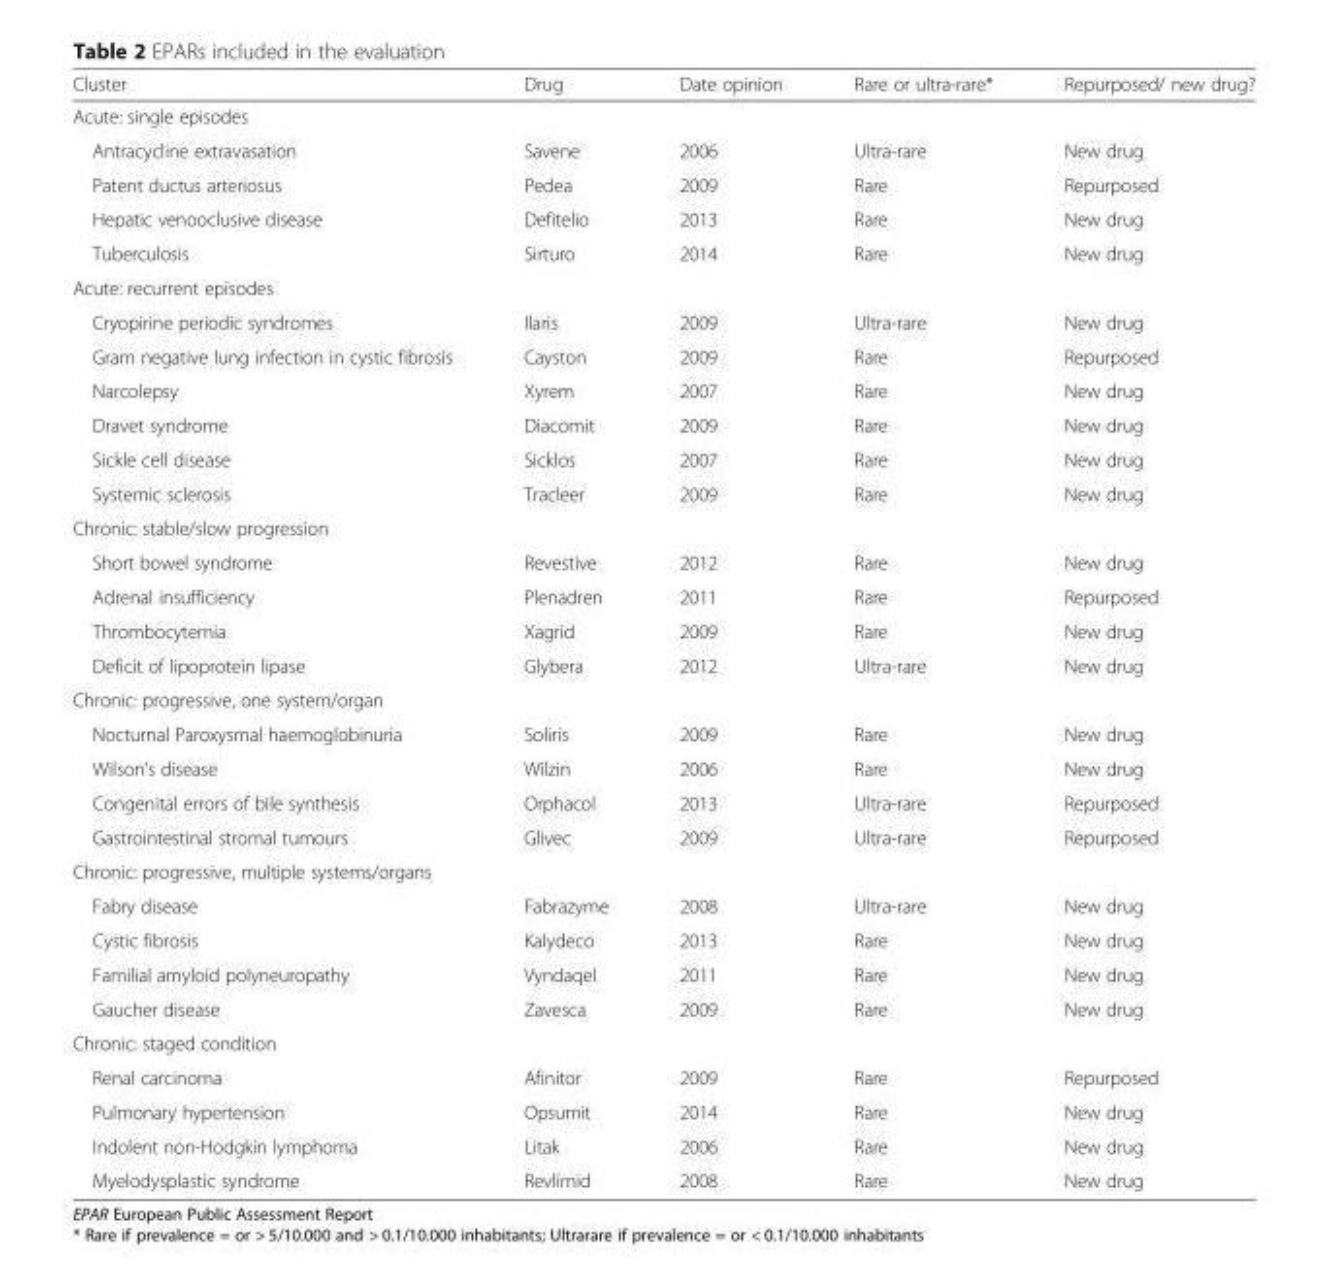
<table><thead><tr><td>Cluster</td><td>Drug</td><td>Date opinion</td><td>Rare or ultra-rare*</td><td>Repurposed/ new drug?</td></tr></thead><tbody><tr><td colspan="5">Acute: single episodes</td></tr><tr><td>Antracycline extravasation</td><td>Savene</td><td>2006</td><td>Ultra-rare</td><td>New drug</td></tr><tr><td>Patent ductus arteriosus</td><td>Pedea</td><td>2009</td><td>Rare</td><td>Repurposed</td></tr><tr><td>Hepatic venooclusive disease</td><td>Defitelio</td><td>2013</td><td>Rare</td><td>New drug</td></tr><tr><td>Tuberculosis</td><td>Sirturo</td><td>2014</td><td>Rare</td><td>New drug</td></tr><tr><td colspan="5">Acute: recurrent episodes</td></tr><tr><td>Cryopirine periodic syndromes</td><td>Ilaris</td><td>2009</td><td>Ultra-rare</td><td>New drug</td></tr><tr><td>Gram negative lung infection in cystic fibrosis</td><td>Cayston</td><td>2009</td><td>Rare</td><td>Repurposed</td></tr><tr><td>Narcolepsy</td><td>Xyrem</td><td>2007</td><td>Rare</td><td>New drug</td></tr><tr><td>Dravet syndrome</td><td>Diacomit</td><td>2009</td><td>Rare</td><td>New drug</td></tr><tr><td>Sickle cell disease</td><td>Sicklos</td><td>2007</td><td>Rare</td><td>New drug</td></tr><tr><td>Systemic sclerosis</td><td>Tracleer</td><td>2009</td><td>Rare</td><td>New drug</td></tr><tr><td colspan="5">Chronic: stable/slow progression</td></tr><tr><td>Short bowel syndrome</td><td>Revestive</td><td>2012</td><td>Rare</td><td>New drug</td></tr><tr><td>Adrenal insufficiency</td><td>Plenadren</td><td>2011</td><td>Rare</td><td>Repurposed</td></tr><tr><td>Thrombocytemia</td><td>Xagrid</td><td>2009</td><td>Rare</td><td>New drug</td></tr><tr><td>Deficit of lipoprotein lipase</td><td>Glybera</td><td>2012</td><td>Ultra-rare</td><td>New drug</td></tr><tr><td colspan="5">Chronic: progressive, one system/organ</td></tr><tr><td>Nocturnal Paroxysmal haemoglobinuria</td><td>Soliris</td><td>2009</td><td>Rare</td><td>New drug</td></tr><tr><td>Wilson’s disease</td><td>Wilzin</td><td>2006</td><td>Rare</td><td>New drug</td></tr><tr><td>Congenital errors of bile synthesis</td><td>Orphacol</td><td>2013</td><td>Ultra-rare</td><td>Repurposed</td></tr><tr><td>Gastrointestinal stromal tumours</td><td>Glivec</td><td>2009</td><td>Ultra-rare</td><td>Repurposed</td></tr><tr><td colspan="5">Chronic: progressive, multiple systems/organs</td></tr><tr><td>Fabry disease</td><td>Fabrazyme</td><td>2008</td><td>Ultra-rare</td><td>New drug</td></tr><tr><td>Cystic fibrosis</td><td>Kalydeco</td><td>2013</td><td>Rare</td><td>New drug</td></tr><tr><td>Familial amyloid polyneuropathy</td><td>Vyndaqel</td><td>2011</td><td>Rare</td><td>New drug</td></tr><tr><td>Gaucher disease</td><td>Zavesca</td><td>2009</td><td>Rare</td><td>New drug</td></tr><tr><td colspan="5">Chronic: staged condition</td></tr><tr><td>Renal carcinoma</td><td>Afinitor</td><td>2009</td><td>Rare</td><td>Repurposed</td></tr><tr><td>Pulmonary hypertension</td><td>Opsumit</td><td>2014</td><td>Rare</td><td>New drug</td></tr><tr><td>Indolent non-Hodgkin lymphoma</td><td>Litak</td><td>2006</td><td>Rare</td><td>New drug</td></tr><tr><td>Myelodysplastic syndrome</td><td>Revlimid</td><td>2008</td><td>Rare</td><td>New drug</td></tr></tbody></table>